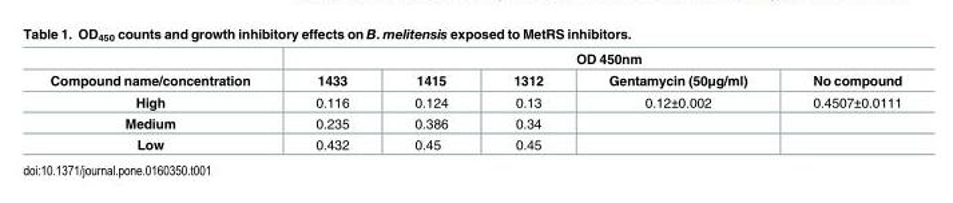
<table><thead><tr><td rowspan="2">Compound name/concentration</td><td colspan="5">OD 450nm</td></tr><tr><td>1433</td><td>1415</td><td>1312</td><td>Gentamycin (50μg/ml)</td><td>No compound</td></tr></thead><tbody><tr><td>High</td><td>0.116</td><td>0.124</td><td>0.13</td><td>0.12±0.002</td><td>0.4507±0.0111</td></tr><tr><td>Medium</td><td>0.235</td><td>0.386</td><td>0.34</td><td></td><td></td></tr><tr><td>Low</td><td>0.432</td><td>0.45</td><td>0.45</td><td></td><td></td></tr></tbody></table>